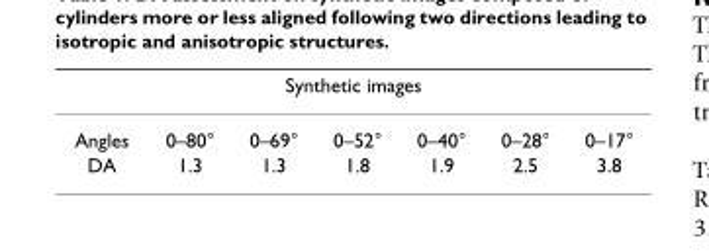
<table><thead><tr><td colspan="7">Synthetic images</td></tr><tr><td>Angles</td><td>0–80°</td><td>0–69°</td><td>0–52°</td><td>0–40°</td><td>0–28°</td><td>0–17°</td></tr></thead><tbody><tr><td>DA</td><td>1.3</td><td>1.3</td><td>1.8</td><td>1.9</td><td>2.5</td><td>3.8</td></tr></tbody></table>